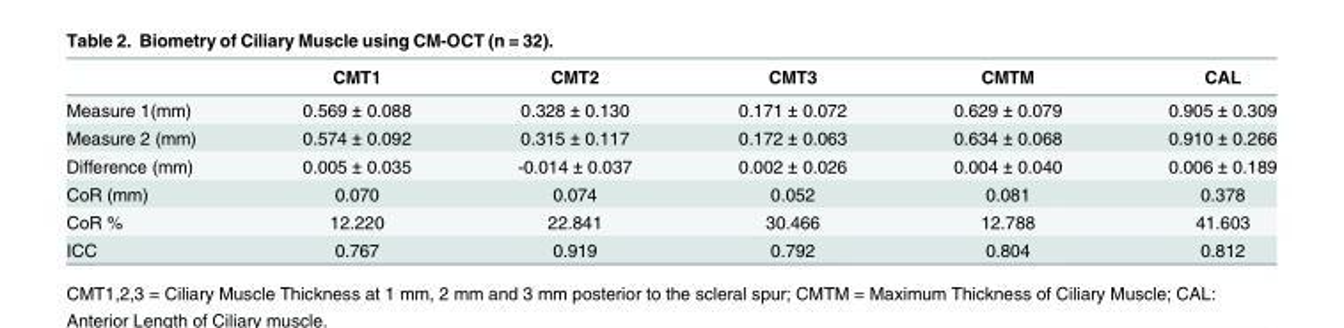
<table><thead><tr><td></td><td>CMT1</td><td>CMT2</td><td>CMT3</td><td>CMTM</td><td>CAL</td></tr></thead><tbody><tr><td>Measure 1(mm)</td><td>0.569 ± 0.088</td><td>0.328 ± 0.130</td><td>0.171 ± 0.072</td><td>0.629 ± 0.079</td><td>0.905 ± 0.309</td></tr><tr><td>Measure 2 (mm)</td><td>0.574 ± 0.092</td><td>0.315 ± 0.117</td><td>0.172 ± 0.063</td><td>0.634 ± 0.068</td><td>0.910 ± 0.266</td></tr><tr><td>Difference (mm)</td><td>0.005 ± 0.035</td><td>-0.014 ± 0.037</td><td>0.002 ± 0.026</td><td>0.004 ± 0.040</td><td>0.006 ± 0.189</td></tr><tr><td>CoR (mm)</td><td>0.070</td><td>0.074</td><td>0.052</td><td>0.081</td><td>0.378</td></tr><tr><td>CoR %</td><td>12.220</td><td>22.841</td><td>30.466</td><td>12.788</td><td>41.603</td></tr><tr><td>ICC</td><td>0.767</td><td>0.919</td><td>0.792</td><td>0.804</td><td>0.812</td></tr></tbody></table>